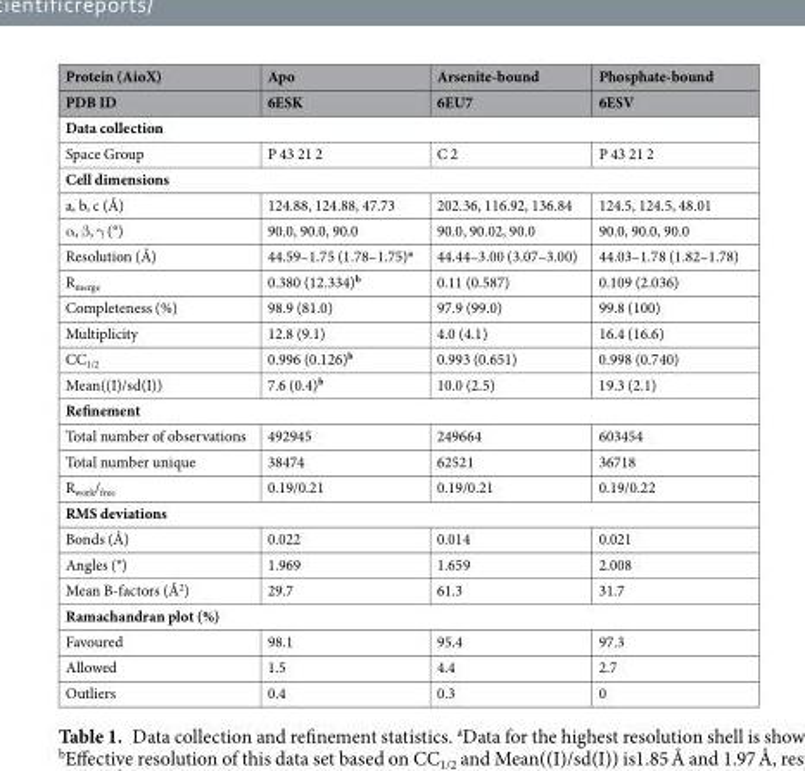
<table><thead><tr><td rowspan="2">Protein (AioX) PDB ID</td><td rowspan="2">Apo 6ESK</td><td rowspan="2">Arsenite-bound 6EU7</td><td rowspan="2">Phosphate-bound 6ESV</td></tr><tr></tr></thead><tbody><tr><td colspan="4">Data collection</td></tr><tr><td>Space Group</td><td>P 43 21 2</td><td>C 2</td><td>P 43 21 2</td></tr><tr><td colspan="4">Cell dimensions</td></tr><tr><td>a, b, c (Å)</td><td>124.88, 124.88, 47.73</td><td>202.36, 116.92, 136.84</td><td>124.5, 124.5, 48.01</td></tr><tr><td>α, β, γ (°)</td><td>90.0, 90.0, 90.0</td><td>90.0, 90.02, 90.0</td><td>90.0, 90.0, 90.0</td></tr><tr><td>Resolution (Å)</td><td>44.59–1.75 (1.78–1.75)<sup>a</sup></td><td>44.44–3.00 (3.07–3.00)</td><td>44.03–1.78 (1.82–1.78)</td></tr><tr><td>R<sub>merge</sub></td><td>0.380 (12.334)<sup>b</sup></td><td>0.11 (0.587)</td><td>0.109 (2.036)</td></tr><tr><td>Completeness (%)</td><td>98.9 (81.0)</td><td>97.9 (99.0)</td><td>99.8 (100)</td></tr><tr><td>Multiplicity</td><td>12.8 (9.1)</td><td>4.0 (4.1)</td><td>16.4 (16.6)</td></tr><tr><td>CC<sub>1/2</sub></td><td>0.996 (0.126)<sup>b</sup></td><td>0.993 (0.651)</td><td>0.998 (0.740)</td></tr><tr><td>Mean((I)/sd(I))</td><td>7.6 (0.4)<sup>b</sup></td><td>10.0 (2.5)</td><td>19.3 (2.1)</td></tr><tr><td colspan="4">Refinement</td></tr><tr><td>Total number of observations</td><td>492945</td><td>249664</td><td>603454</td></tr><tr><td>Total number unique</td><td>38474</td><td>62521</td><td>36718</td></tr><tr><td>R<sub>work</sub>/<sub>free</sub></td><td>0.19/0.21</td><td>0.19/0.21</td><td>0.19/0.22</td></tr><tr><td colspan="4">RMS deviations</td></tr><tr><td>Bonds (Å)</td><td>0.022</td><td>0.014</td><td>0.021</td></tr><tr><td>Angles (°)</td><td>1.969</td><td>1.659</td><td>2.008</td></tr><tr><td>Mean B-factors (Å<sup>2</sup>)</td><td>29.7</td><td>61.3</td><td>31.7</td></tr><tr><td colspan="4">Ramachandran plot (%)</td></tr><tr><td>Favoured</td><td>98.1</td><td>95.4</td><td>97.3</td></tr><tr><td>Allowed</td><td>1.5</td><td>4.4</td><td>2.7</td></tr><tr><td>Outliers</td><td>0.4</td><td>0.3</td><td>0</td></tr></tbody></table>